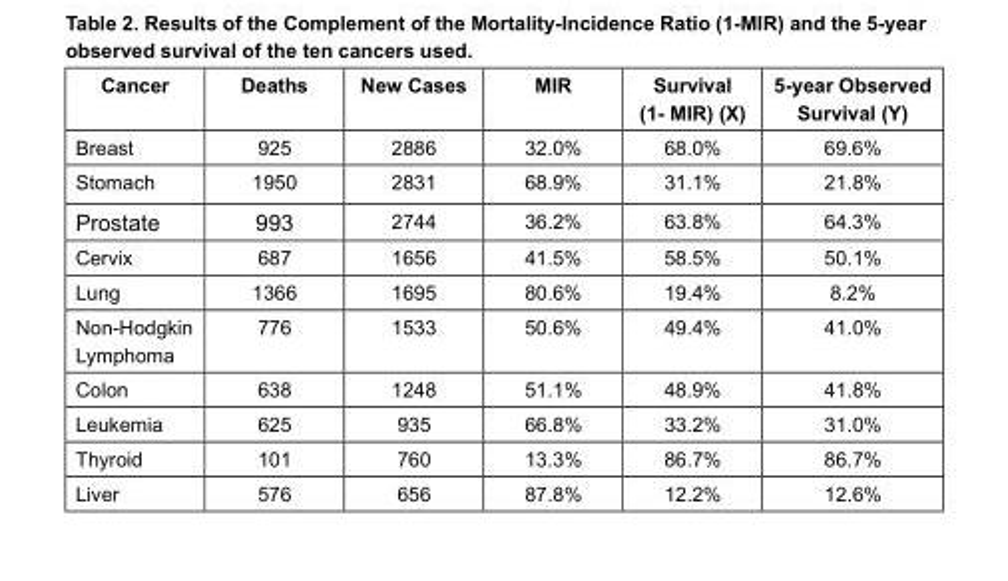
<table><thead><tr><td>Cancer</td><td>Deaths</td><td>New Cases</td><td>MIR</td><td>Survival (1- MIR) (X)</td><td>5-year Observed Survival (Y)</td></tr></thead><tbody><tr><td>Breast</td><td>925</td><td>2886</td><td>32.0%</td><td>68.0%</td><td>69.6%</td></tr><tr><td>Stomach</td><td>1950</td><td>2831</td><td>68.9%</td><td>31.1%</td><td>21.8%</td></tr><tr><td>Prostate</td><td>993</td><td>2744</td><td>36.2%</td><td>63.8%</td><td>64.3%</td></tr><tr><td>Cervix</td><td>687</td><td>1656</td><td>41.5%</td><td>58.5%</td><td>50.1%</td></tr><tr><td>Lung</td><td>1366</td><td>1695</td><td>80.6%</td><td>19.4%</td><td>8.2%</td></tr><tr><td>Non-Hodgkin Lymphoma</td><td>776</td><td>1533</td><td>50.6%</td><td>49.4%</td><td>41.0%</td></tr><tr><td>Colon</td><td>638</td><td>1248</td><td>51.1%</td><td>48.9%</td><td>41.8%</td></tr><tr><td>Leukemia</td><td>625</td><td>935</td><td>66.8%</td><td>33.2%</td><td>31.0%</td></tr><tr><td>Thyroid</td><td>101</td><td>760</td><td>13.3%</td><td>86.7%</td><td>86.7%</td></tr><tr><td>Liver</td><td>576</td><td>656</td><td>87.8%</td><td>12.2%</td><td>12.6%</td></tr></tbody></table>